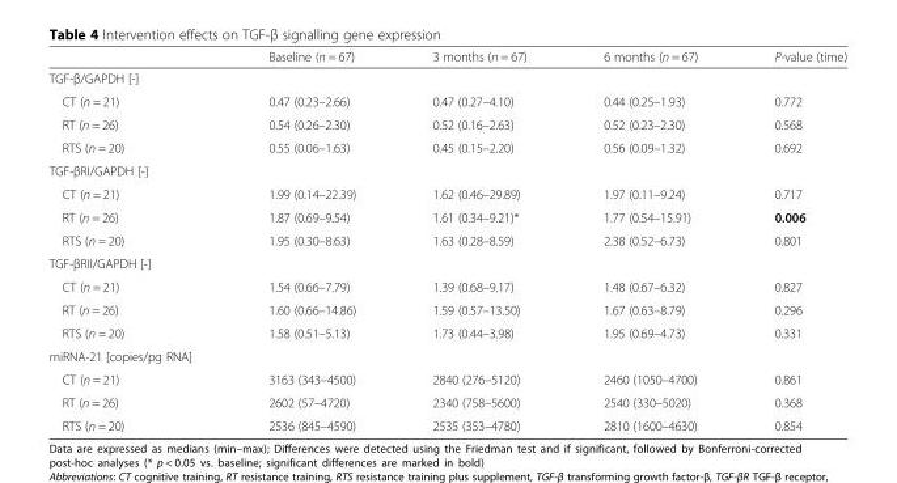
<table><thead><tr><td></td><td>Baseline (n = 67)</td><td>3 months (n = 67)</td><td>6 months (n = 67)</td><td>P-value (time)</td></tr></thead><tbody><tr><td colspan="5">TGF-β/GAPDH [-]</td></tr><tr><td>CT (n = 21)</td><td>0.47 (0.23–2.66)</td><td>0.47 (0.27–4.10)</td><td>0.44 (0.25–1.93)</td><td>0.772</td></tr><tr><td>RT (n = 26)</td><td>0.54 (0.26–2.30)</td><td>0.52 (0.16–2.63)</td><td>0.52 (0.23–2.30)</td><td>0.568</td></tr><tr><td>RTS (n = 20)</td><td>0.55 (0.06–1.63)</td><td>0.45 (0.15–2.20)</td><td>0.56 (0.09–1.32)</td><td>0.692</td></tr><tr><td colspan="5">TGF-βRI/GAPDH [-]</td></tr><tr><td>CT (n = 21)</td><td>1.99 (0.14–22.39)</td><td>1.62 (0.46–29.89)</td><td>1.97 (0.11–9.24)</td><td>0.717</td></tr><tr><td>RT (n = 26)</td><td>1.87 (0.69–9.54)</td><td>1.61 (0.34–9.21)*</td><td>1.77 (0.54–15.91)</td><td>0.006</td></tr><tr><td>RTS (n = 20)</td><td>1.95 (0.30–8.63)</td><td>1.63 (0.28–8.59)</td><td>2.38 (0.52–6.73)</td><td>0.801</td></tr><tr><td colspan="5">TGF-βRII/GAPDH [-]</td></tr><tr><td>CT (n = 21)</td><td>1.54 (0.66–7.79)</td><td>1.39 (0.68–9.17)</td><td>1.48 (0.67–6.32)</td><td>0.827</td></tr><tr><td>RT (n = 26)</td><td>1.60 (0.66–14.86)</td><td>1.59 (0.57–13.50)</td><td>1.67 (0.63–8.79)</td><td>0.296</td></tr><tr><td>RTS (n = 20)</td><td>1.58 (0.51–5.13)</td><td>1.73 (0.44–3.98)</td><td>1.95 (0.69–4.73)</td><td>0.331</td></tr><tr><td colspan="5">miRNA-21 [copies/pg RNA]</td></tr><tr><td>CT (n = 21)</td><td>3163 (343–4500)</td><td>2840 (276–5120)</td><td>2460 (1050–4700)</td><td>0.861</td></tr><tr><td>RT (n = 26)</td><td>2602 (57–4720)</td><td>2340 (758–5600)</td><td>2540 (330–5020)</td><td>0.368</td></tr><tr><td>RTS (n = 20)</td><td>2536 (845–4590)</td><td>2535 (353–4780)</td><td>2810 (1600–4630)</td><td>0.854</td></tr></tbody></table>